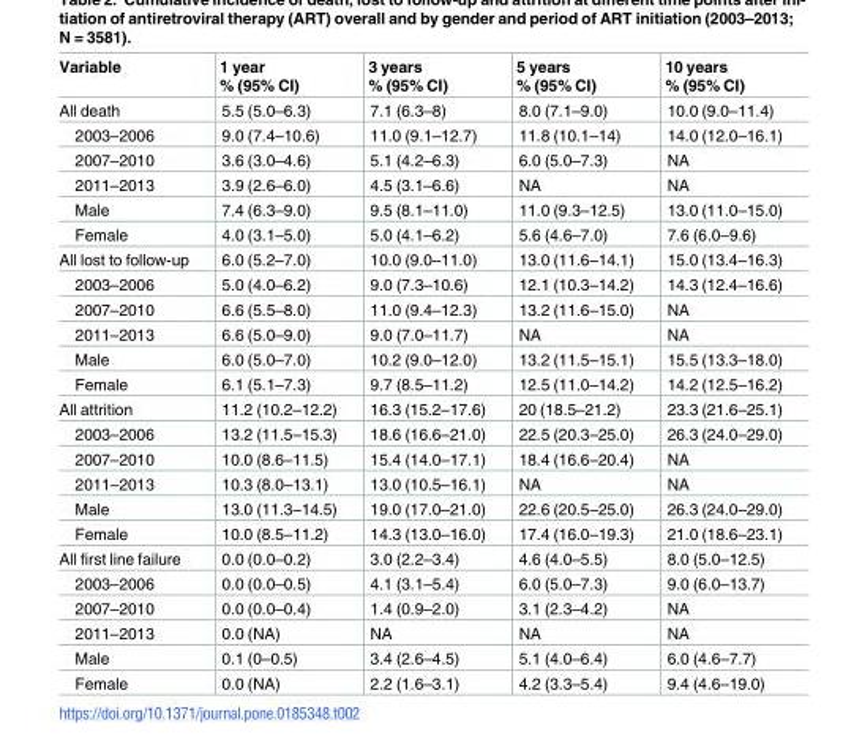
<table><thead><tr><td>Variable</td><td>1 year % (95% CI)</td><td>3 years % (95% CI)</td><td>5 years % (95% CI)</td><td>10 years % (95% CI)</td></tr></thead><tbody><tr><td>All death</td><td>5.5 (5.0–6.3)</td><td>7.1 (6.3–8)</td><td>8.0 (7.1–9.0)</td><td>10.0 (9.0–11.4)</td></tr><tr><td>2003–2006</td><td>9.0 (7.4–10.6)</td><td>11.0 (9.1–12.7)</td><td>11.8 (10.1–14)</td><td>14.0 (12.0–16.1)</td></tr><tr><td>2007–2010</td><td>3.6 (3.0–4.6)</td><td>5.1 (4.2–6.3)</td><td>6.0 (5.0–7.3)</td><td>NA</td></tr><tr><td>2011–2013</td><td>3.9 (2.6–6.0)</td><td>4.5 (3.1–6.6)</td><td>NA</td><td>NA</td></tr><tr><td>Male</td><td>7.4 (6.3–9.0)</td><td>9.5 (8.1–11.0)</td><td>11.0 (9.3–12.5)</td><td>13.0 (11.0–15.0)</td></tr><tr><td>Female</td><td>4.0 (3.1–5.0)</td><td>5.0 (4.1–6.2)</td><td>5.6 (4.6–7.0)</td><td>7.6 (6.0–9.6)</td></tr><tr><td>All lost to follow-up</td><td>6.0 (5.2–7.0)</td><td>10.0 (9.0–11.0)</td><td>13.0 (11.6–14.1)</td><td>15.0 (13.4–16.3)</td></tr><tr><td>2003–2006</td><td>5.0 (4.0–6.2)</td><td>9.0 (7.3–10.6)</td><td>12.1 (10.3–14.2)</td><td>14.3 (12.4–16.6)</td></tr><tr><td>2007–2010</td><td>6.6 (5.5–8.0)</td><td>11.0 (9.4–12.3)</td><td>13.2 (11.6–15.0)</td><td>NA</td></tr><tr><td>2011–2013</td><td>6.6 (5.0–9.0)</td><td>9.0 (7.0–11.7)</td><td>NA</td><td>NA</td></tr><tr><td>Male</td><td>6.0 (5.0–7.0)</td><td>10.2 (9.0–12.0)</td><td>13.2 (11.5–15.1)</td><td>15.5 (13.3–18.0)</td></tr><tr><td>Female</td><td>6.1 (5.1–7.3)</td><td>9.7 (8.5–11.2)</td><td>12.5 (11.0–14.2)</td><td>14.2 (12.5–16.2)</td></tr><tr><td>All attrition</td><td>11.2 (10.2–12.2)</td><td>16.3 (15.2–17.6)</td><td>20 (18.5–21.2)</td><td>23.3 (21.6–25.1)</td></tr><tr><td>2003–2006</td><td>13.2 (11.5–15.3)</td><td>18.6 (16.6–21.0)</td><td>22.5 (20.3–25.0)</td><td>26.3 (24.0–29.0)</td></tr><tr><td>2007–2010</td><td>10.0 (8.6–11.5)</td><td>15.4 (14.0–17.1)</td><td>18.4 (16.6–20.4)</td><td>NA</td></tr><tr><td>2011–2013</td><td>10.3 (8.0–13.1)</td><td>13.0 (10.5–16.1)</td><td>NA</td><td>NA</td></tr><tr><td>Male</td><td>13.0 (11.3–14.5)</td><td>19.0 (17.0–21.0)</td><td>22.6 (20.5–25.0)</td><td>26.3 (24.0–29.0)</td></tr><tr><td>Female</td><td>10.0 (8.5–11.2)</td><td>14.3 (13.0–16.0)</td><td>17.4 (16.0–19.3)</td><td>21.0 (18.6–23.1)</td></tr><tr><td>All first line failure</td><td>0.0 (0.0–0.2)</td><td>3.0 (2.2–3.4)</td><td>4.6 (4.0–5.5)</td><td>8.0 (5.0–12.5)</td></tr><tr><td>2003–2006</td><td>0.0 (0.0–0.5)</td><td>4.1 (3.1–5.4)</td><td>6.0 (5.0–7.3)</td><td>9.0 (6.0–13.7)</td></tr><tr><td>2007–2010</td><td>0.0 (0.0–0.4)</td><td>1.4 (0.9–2.0)</td><td>3.1 (2.3–4.2)</td><td>NA</td></tr><tr><td>2011–2013</td><td>0.0 (NA)</td><td>NA</td><td>NA</td><td>NA</td></tr><tr><td>Male</td><td>0.1 (0–0.5)</td><td>3.4 (2.6–4.5)</td><td>5.1 (4.0–6.4)</td><td>6.0 (4.6–7.7)</td></tr><tr><td>Female</td><td>0.0 (NA)</td><td>2.2 (1.6–3.1)</td><td>4.2 (3.3–5.4)</td><td>9.4 (4.6–19.0)</td></tr></tbody></table>